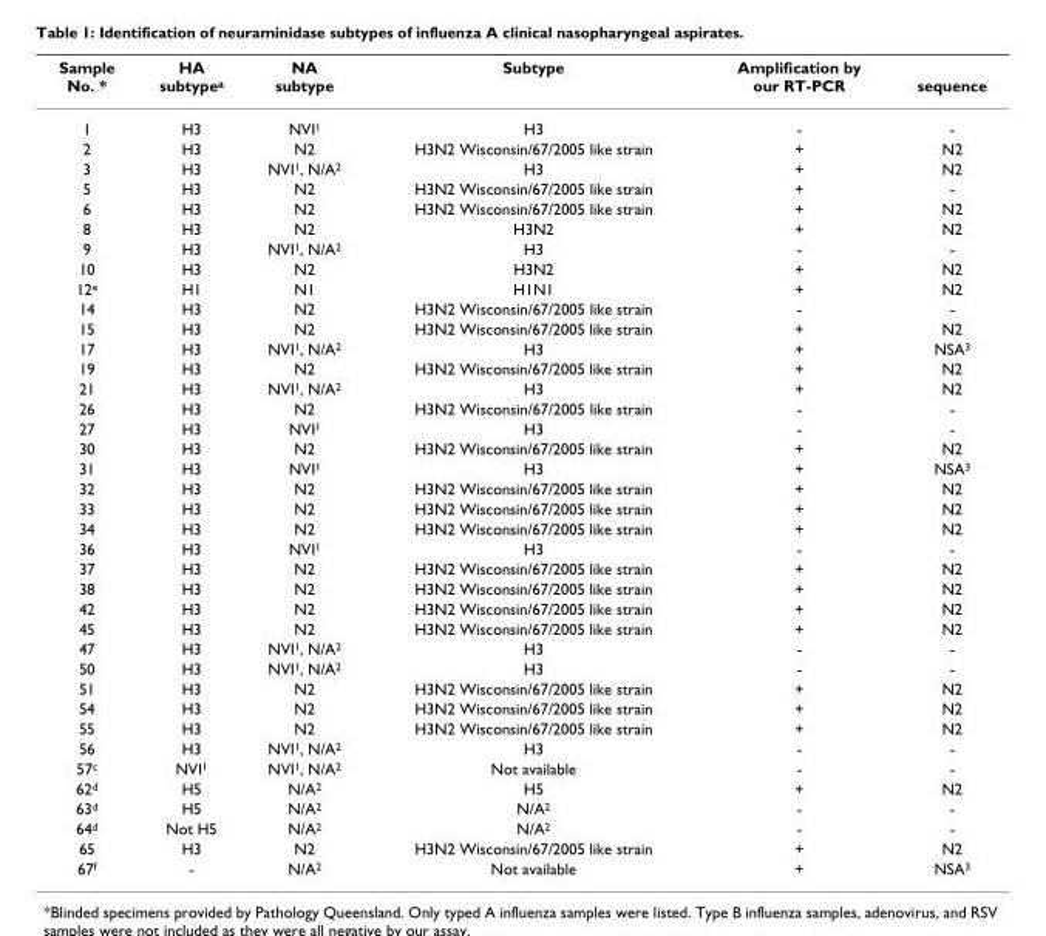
<table><thead><tr><td>Sample No. *</td><td>HA subtype<sup>a</sup></td><td>NA subtype</td><td>Subtype</td><td>Amplification by our RT-PCR</td><td>sequence</td></tr></thead><tbody><tr><td>1</td><td>H3</td><td>NVI<sup>1</sup></td><td>H3</td><td>-</td><td>-</td></tr><tr><td>2</td><td>H3</td><td>N2</td><td>H3N2 Wisconsin/67/2005 like strain</td><td>+</td><td>N2</td></tr><tr><td>3</td><td>H3</td><td>NVI<sup>1</sup>, N/A<sup>2</sup></td><td>H3</td><td>+</td><td>N2</td></tr><tr><td>5</td><td>H3</td><td>N2</td><td>H3N2 Wisconsin/67/2005 like strain</td><td>+</td><td>-</td></tr><tr><td>6</td><td>H3</td><td>N2</td><td>H3N2 Wisconsin/67/2005 like strain</td><td>+</td><td>N2</td></tr><tr><td>8</td><td>H3</td><td>N2</td><td>H3N2</td><td>+</td><td>N2</td></tr><tr><td>9</td><td>H3</td><td>NVI<sup>1</sup>, N/A<sup>2</sup></td><td>H3</td><td>-</td><td>-</td></tr><tr><td>10</td><td>H3</td><td>N2</td><td>H3N2</td><td>+</td><td>N2</td></tr><tr><td>12<sup>e</sup></td><td>H1</td><td>N1</td><td>H1N1</td><td>+</td><td>N2</td></tr><tr><td>14</td><td>H3</td><td>N2</td><td>H3N2 Wisconsin/67/2005 like strain</td><td>-</td><td>-</td></tr><tr><td>15</td><td>H3</td><td>N2</td><td>H3N2 Wisconsin/67/2005 like strain</td><td>+</td><td>N2</td></tr><tr><td>17</td><td>H3</td><td>NVI<sup>1</sup>, N/A<sup>2</sup></td><td>H3</td><td>+</td><td>NSA<sup>3</sup></td></tr><tr><td>19</td><td>H3</td><td>N2</td><td>H3N2 Wisconsin/67/2005 like strain</td><td>+</td><td>N2</td></tr><tr><td>21</td><td>H3</td><td>NVI<sup>1</sup>, N/A<sup>2</sup></td><td>H3</td><td>+</td><td>N2</td></tr><tr><td>26</td><td>H3</td><td>N2</td><td>H3N2 Wisconsin/67/2005 like strain</td><td>-</td><td>-</td></tr><tr><td>27</td><td>H3</td><td>NVI<sup>1</sup></td><td>H3</td><td>-</td><td>-</td></tr><tr><td>30</td><td>H3</td><td>N2</td><td>H3N2 Wisconsin/67/2005 like strain</td><td>+</td><td>N2</td></tr><tr><td>31</td><td>H3</td><td>NVI<sup>1</sup></td><td>H3</td><td>+</td><td>NSA<sup>3</sup></td></tr><tr><td>32</td><td>H3</td><td>N2</td><td>H3N2 Wisconsin/67/2005 like strain</td><td>+</td><td>N2</td></tr><tr><td>33</td><td>H3</td><td>N2</td><td>H3N2 Wisconsin/67/2005 like strain</td><td>+</td><td>N2</td></tr><tr><td>34</td><td>H3</td><td>N2</td><td>H3N2 Wisconsin/67/2005 like strain</td><td>+</td><td>N2</td></tr><tr><td>36</td><td>H3</td><td>NVI<sup>1</sup></td><td>H3</td><td>-</td><td>-</td></tr><tr><td>37</td><td>H3</td><td>N2</td><td>H3N2 Wisconsin/67/2005 like strain</td><td>+</td><td>N2</td></tr><tr><td>38</td><td>H3</td><td>N2</td><td>H3N2 Wisconsin/67/2005 like strain</td><td>+</td><td>N2</td></tr><tr><td>42</td><td>H3</td><td>N2</td><td>H3N2 Wisconsin/67/2005 like strain</td><td>+</td><td>N2</td></tr><tr><td>45</td><td>H3</td><td>N2</td><td>H3N2 Wisconsin/67/2005 like strain</td><td>+</td><td>N2</td></tr><tr><td>47</td><td>H3</td><td>NVI<sup>1</sup>, N/A<sup>2</sup></td><td>H3</td><td>-</td><td>-</td></tr><tr><td>50</td><td>H3</td><td>NVI<sup>1</sup>, N/A<sup>2</sup></td><td>H3</td><td>-</td><td>-</td></tr><tr><td>51</td><td>H3</td><td>N2</td><td>H3N2 Wisconsin/67/2005 like strain</td><td>+</td><td>N2</td></tr><tr><td>54</td><td>H3</td><td>N2</td><td>H3N2 Wisconsin/67/2005 like strain</td><td>+</td><td>N2</td></tr><tr><td>55</td><td>H3</td><td>N2</td><td>H3N2 Wisconsin/67/2005 like strain</td><td>+</td><td>N2</td></tr><tr><td>56</td><td>H3</td><td>NVI<sup>1</sup>, N/A<sup>2</sup></td><td>H3</td><td>-</td><td>-</td></tr><tr><td>57<sup>c</sup></td><td>NVI<sup>1</sup></td><td>NVI<sup>1</sup>, N/A<sup>2</sup></td><td>Not available</td><td>-</td><td>-</td></tr><tr><td>62<sup>d</sup></td><td>H5</td><td>N/A<sup>2</sup></td><td>H5</td><td>+</td><td>N2</td></tr><tr><td>63<sup>d</sup></td><td>H5</td><td>N/A<sup>2</sup></td><td>N/A<sup>2</sup></td><td>-</td><td>-</td></tr><tr><td>64<sup>d</sup></td><td>Not H5</td><td>N/A<sup>2</sup></td><td>N/A<sup>2</sup></td><td>-</td><td>-</td></tr><tr><td>65</td><td>H3</td><td>N2</td><td>H3N2 Wisconsin/67/2005 like strain</td><td>+</td><td>N2</td></tr><tr><td>67<sup>f</sup></td><td>-</td><td>N/A<sup>2</sup></td><td>Not available</td><td>+</td><td>NSA<sup>3</sup></td></tr></tbody></table>